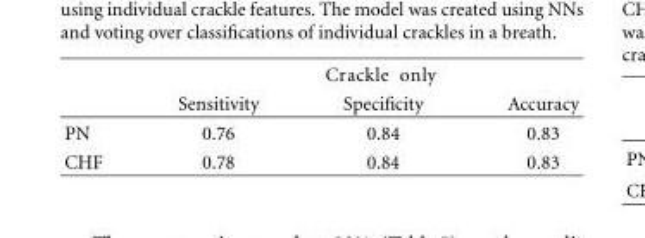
<table><thead><tr><td rowspan="2"></td><td colspan="3">Crackle only</td></tr><tr><td>Sensitivity</td><td>Specificity</td><td>Accuracy</td></tr></thead><tbody><tr><td>PN</td><td>0.76</td><td>0.84</td><td>0.83</td></tr><tr><td>CHF</td><td>0.78</td><td>0.84</td><td>0.83</td></tr></tbody></table>